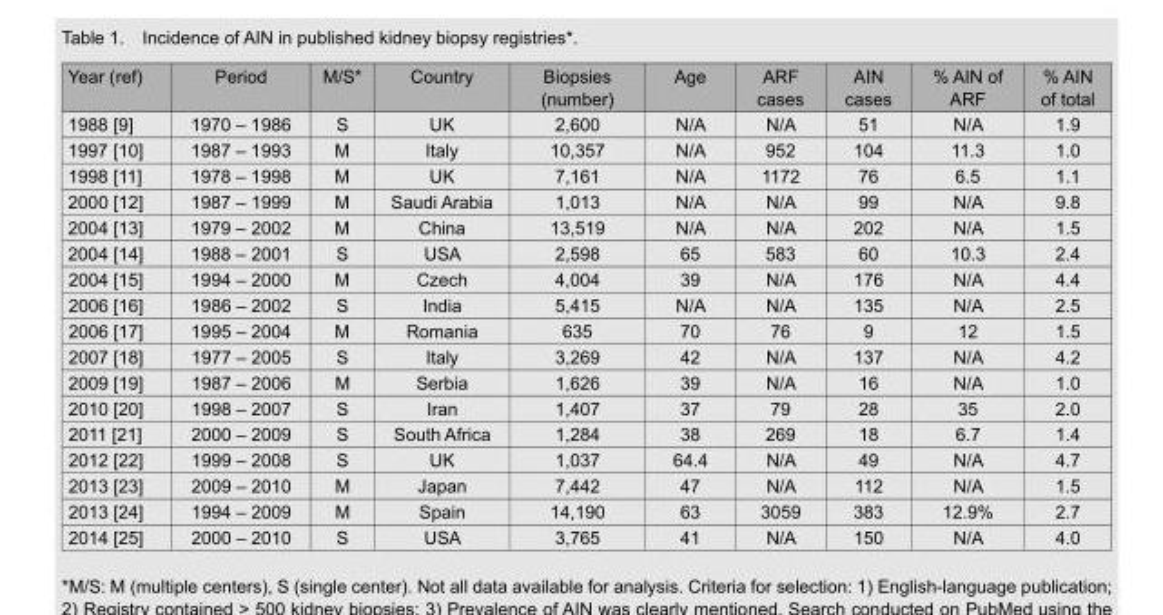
<table><thead><tr><td>Year (ref)</td><td>Period</td><td>M/S*</td><td>Country</td><td>Biopsies (number)</td><td>Age</td><td>ARF cases</td><td>AIN cases</td><td>% AIN of ARF</td><td>% AIN of total</td></tr></thead><tbody><tr><td>1988 [9]</td><td>1970 – 1986</td><td>S</td><td>UK</td><td>2,600</td><td>N/A</td><td>N/A</td><td>51</td><td>N/A</td><td>1.9</td></tr><tr><td>1997 [10]</td><td>1987 – 1993</td><td>M</td><td>Italy</td><td>10,357</td><td>N/A</td><td>952</td><td>104</td><td>11.3</td><td>1.0</td></tr><tr><td>1998 [11]</td><td>1978 – 1998</td><td>M</td><td>UK</td><td>7,161</td><td>N/A</td><td>1172</td><td>76</td><td>6.5</td><td>1.1</td></tr><tr><td>2000 [12]</td><td>1987 – 1999</td><td>M</td><td>Saudi Arabia</td><td>1,013</td><td>N/A</td><td>N/A</td><td>99</td><td>N/A</td><td>9.8</td></tr><tr><td>2004 [13]</td><td>1979 – 2002</td><td>M</td><td>China</td><td>13,519</td><td>N/A</td><td>N/A</td><td>202</td><td>N/A</td><td>1.5</td></tr><tr><td>2004 [14]</td><td>1988 – 2001</td><td>S</td><td>USA</td><td>2,598</td><td>65</td><td>583</td><td>60</td><td>10.3</td><td>2.4</td></tr><tr><td>2004 [15]</td><td>1994 – 2000</td><td>M</td><td>Czech</td><td>4,004</td><td>39</td><td>N/A</td><td>176</td><td>N/A</td><td>4.4</td></tr><tr><td>2006 [16]</td><td>1986 – 2002</td><td>S</td><td>India</td><td>5,415</td><td>N/A</td><td>N/A</td><td>135</td><td>N/A</td><td>2.5</td></tr><tr><td>2006 [17]</td><td>1995 – 2004</td><td>M</td><td>Romania</td><td>635</td><td>70</td><td>76</td><td>9</td><td>12</td><td>1.5</td></tr><tr><td>2007 [18]</td><td>1977 – 2005</td><td>S</td><td>Italy</td><td>3,269</td><td>42</td><td>N/A</td><td>137</td><td>N/A</td><td>4.2</td></tr><tr><td>2009 [19]</td><td>1987 – 2006</td><td>M</td><td>Serbia</td><td>1,626</td><td>39</td><td>N/A</td><td>16</td><td>N/A</td><td>1.0</td></tr><tr><td>2010 [20]</td><td>1998 – 2007</td><td>S</td><td>Iran</td><td>1,407</td><td>37</td><td>79</td><td>28</td><td>35</td><td>2.0</td></tr><tr><td>2011 [21]</td><td>2000 – 2009</td><td>S</td><td>South Africa</td><td>1,284</td><td>38</td><td>269</td><td>18</td><td>6.7</td><td>1.4</td></tr><tr><td>2012 [22]</td><td>1999 – 2008</td><td>S</td><td>UK</td><td>1,037</td><td>64.4</td><td>N/A</td><td>49</td><td>N/A</td><td>4.7</td></tr><tr><td>2013 [23]</td><td>2009 – 2010</td><td>M</td><td>Japan</td><td>7,442</td><td>47</td><td>N/A</td><td>112</td><td>N/A</td><td>1.5</td></tr><tr><td>2013 [24]</td><td>1994 – 2009</td><td>M</td><td>Spain</td><td>14,190</td><td>63</td><td>3059</td><td>383</td><td>12.9%</td><td>2.7</td></tr><tr><td>2014 [25]</td><td>2000 – 2010</td><td>S</td><td>USA</td><td>3,765</td><td>41</td><td>N/A</td><td>150</td><td>N/A</td><td>4.0</td></tr></tbody></table>